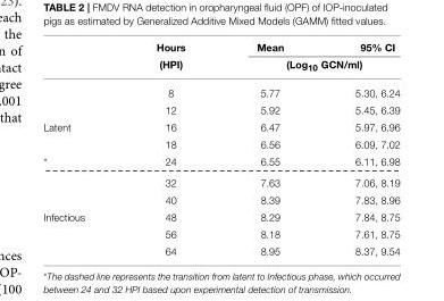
<table><thead><tr><td rowspan="2"></td><td rowspan="2">Hours (HPI)</td><td>Mean</td><td>95% CI</td></tr><tr><td colspan="2">(Log<sub>10</sub> GCN/ml)</td></tr></thead><tbody><tr><td></td><td>8</td><td>5.77</td><td>5.30, 6.24</td></tr><tr><td></td><td>12</td><td>5.92</td><td>5.45, 6.39</td></tr><tr><td rowspan="2">Latent</td><td>16</td><td>6.47</td><td>5.97, 6.96</td></tr><tr><td>18</td><td>6.56</td><td>6.09, 7.02</td></tr><tr><td rowspan="3">*</td><td>24</td><td>6.55</td><td>6.11, 6.98</td></tr><tr><td>32</td><td>7.63</td><td>7.06, 8.19</td></tr><tr><td>40</td><td>8.39</td><td>7.83, 8.96</td></tr><tr><td rowspan="3">Infectious</td><td>48</td><td>8.29</td><td>7.84, 8.75</td></tr><tr><td>56</td><td>8.18</td><td>7.61, 8.75</td></tr><tr><td>64</td><td>8.95</td><td>8.37, 9.54</td></tr></tbody></table>